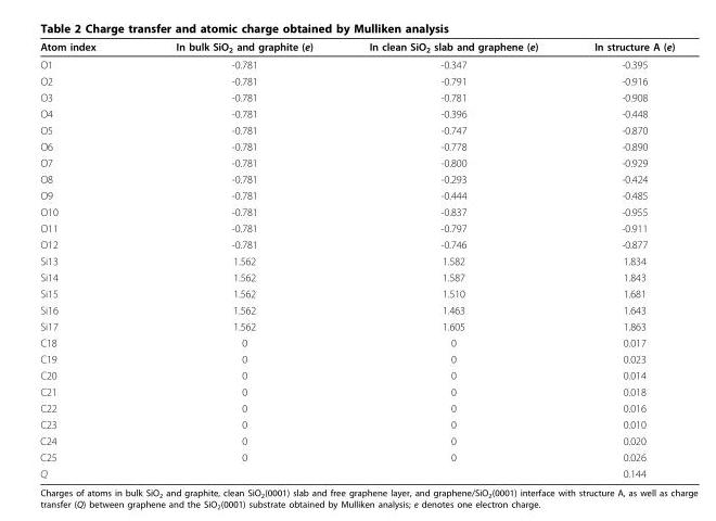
<table><thead><tr><td>Atom index</td><td>In bulk SiO<sub>2</sub> and graphite (e)</td><td>In clean SiO<sub>2</sub> slab and graphene (e)</td><td>In structure A (e)</td></tr></thead><tbody><tr><td>O1</td><td>-0.781</td><td>-0.347</td><td>-0.395</td></tr><tr><td>O2</td><td>-0.781</td><td>-0.791</td><td>-0.916</td></tr><tr><td>O3</td><td>-0.781</td><td>-0.781</td><td>-0.908</td></tr><tr><td>O4</td><td>-0.781</td><td>-0.396</td><td>-0.448</td></tr><tr><td>O5</td><td>-0.781</td><td>-0.747</td><td>-0.870</td></tr><tr><td>O6</td><td>-0.781</td><td>-0.778</td><td>-0.890</td></tr><tr><td>O7</td><td>-0.781</td><td>-0.800</td><td>-0.929</td></tr><tr><td>O8</td><td>-0.781</td><td>-0.293</td><td>-0.424</td></tr><tr><td>O9</td><td>-0.781</td><td>-0.444</td><td>-0.485</td></tr><tr><td>O10</td><td>-0.781</td><td>-0.837</td><td>-0.955</td></tr><tr><td>O11</td><td>-0.781</td><td>-0.797</td><td>-0.911</td></tr><tr><td>O12</td><td>-0.781</td><td>-0.746</td><td>-0.877</td></tr><tr><td>Si13</td><td>1.562</td><td>1.582</td><td>1.834</td></tr><tr><td>Si14</td><td>1.562</td><td>1.587</td><td>1.843</td></tr><tr><td>Si15</td><td>1.562</td><td>1.510</td><td>1.681</td></tr><tr><td>Si16</td><td>1.562</td><td>1.463</td><td>1.643</td></tr><tr><td>Si17</td><td>1.562</td><td>1.605</td><td>1.863</td></tr><tr><td>C18</td><td>0</td><td>0</td><td>0.017</td></tr><tr><td>C19</td><td>0</td><td>0</td><td>0.023</td></tr><tr><td>C20</td><td>0</td><td>0</td><td>0.014</td></tr><tr><td>C21</td><td>0</td><td>0</td><td>0.018</td></tr><tr><td>C22</td><td>0</td><td>0</td><td>0.016</td></tr><tr><td>C23</td><td>0</td><td>0</td><td>0.010</td></tr><tr><td>C24</td><td>0</td><td>0</td><td>0.020</td></tr><tr><td>C25</td><td>0</td><td>0</td><td>0.026</td></tr><tr><td>Q</td><td></td><td></td><td>0.144</td></tr></tbody></table>